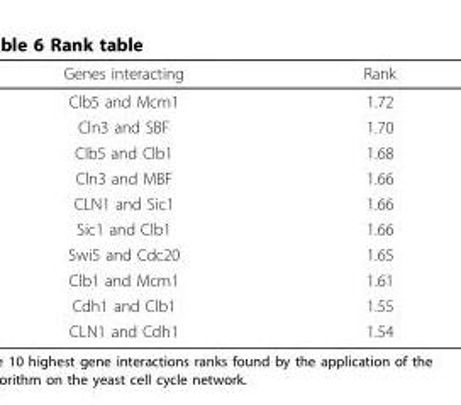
<table><thead><tr><td>Genes interacting</td><td>Rank</td></tr></thead><tbody><tr><td>Clb5 and Mcm1</td><td>1.72</td></tr><tr><td>Cln3 and SBF</td><td>1.70</td></tr><tr><td>Clb5 and Clb1</td><td>1.68</td></tr><tr><td>Cln3 and MBF</td><td>1.66</td></tr><tr><td>CLN1 and Sic1</td><td>1.66</td></tr><tr><td>Sic1 and Clb1</td><td>1.66</td></tr><tr><td>Swi5 and Cdc20</td><td>1.65</td></tr><tr><td>Clb1 and Mcm1</td><td>1.61</td></tr><tr><td>Cdh1 and Clb1</td><td>1.55</td></tr><tr><td>CLN1 and Cdh1</td><td>1.54</td></tr></tbody></table>